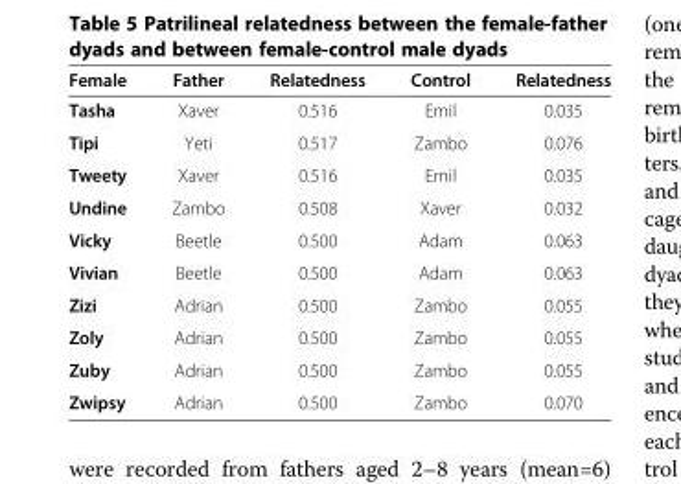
<table><thead><tr><td>Female</td><td>Father</td><td>Relatedness</td><td>Control</td><td>Relatedness</td></tr></thead><tbody><tr><td>Tasha</td><td>Xaver</td><td>0.516</td><td>Emil</td><td>0.035</td></tr><tr><td>Tipi</td><td>Yeti</td><td>0.517</td><td>Zambo</td><td>0.076</td></tr><tr><td>Tweety</td><td>Xaver</td><td>0.516</td><td>Emil</td><td>0.035</td></tr><tr><td>Undine</td><td>Zambo</td><td>0.508</td><td>Xaver</td><td>0.032</td></tr><tr><td>Vicky</td><td>Beetle</td><td>0.500</td><td>Adam</td><td>0.063</td></tr><tr><td>Vivian</td><td>Beetle</td><td>0.500</td><td>Adam</td><td>0.063</td></tr><tr><td>Zizi</td><td>Adrian</td><td>0.500</td><td>Zambo</td><td>0.055</td></tr><tr><td>Zoly</td><td>Adrian</td><td>0.500</td><td>Zambo</td><td>0.055</td></tr><tr><td>Zuby</td><td>Adrian</td><td>0.500</td><td>Zambo</td><td>0.055</td></tr><tr><td>Zwipsy</td><td>Adrian</td><td>0.500</td><td>Zambo</td><td>0.070</td></tr></tbody></table>